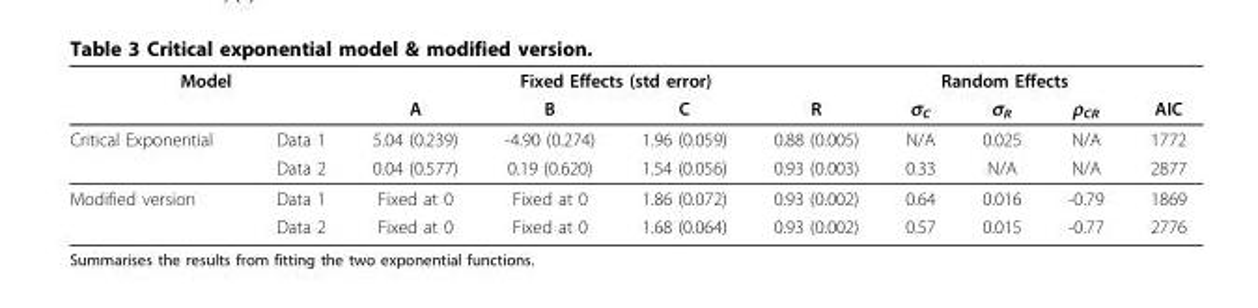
<table><thead><tr><td colspan="2">Model</td><td colspan="4">Fixed Effects (std error)</td><td colspan="3">Random Effects</td><td rowspan="2">AIC</td></tr><tr><td></td><td></td><td>A</td><td>B</td><td>C</td><td>R</td><td>σ<sub>C</sub></td><td>σ<sub>R</sub></td><td>ρ<sub>CR</sub></td></tr></thead><tbody><tr><td rowspan="2">Critical Exponential</td><td>Data 1</td><td>5.04 (0.239)</td><td>-4.90 (0.274)</td><td>1.96 (0.059)</td><td>0.88 (0.005)</td><td>N/A</td><td>0.025</td><td>N/A</td><td>1772</td></tr><tr><td>Data 2</td><td>0.04 (0.577)</td><td>0.19 (0.620)</td><td>1.54 (0.056)</td><td>0.93 (0.003)</td><td>0.33</td><td>N/A</td><td>N/A</td><td>2877</td></tr><tr><td rowspan="2">Modified version</td><td>Data 1</td><td>Fixed at 0</td><td>Fixed at 0</td><td>1.86 (0.072)</td><td>0.93 (0.002)</td><td>0.64</td><td>0.016</td><td>-0.79</td><td>1869</td></tr><tr><td>Data 2</td><td>Fixed at 0</td><td>Fixed at 0</td><td>1.68 (0.064)</td><td>0.93 (0.002)</td><td>0.57</td><td>0.015</td><td>-0.77</td><td>2776</td></tr></tbody></table>